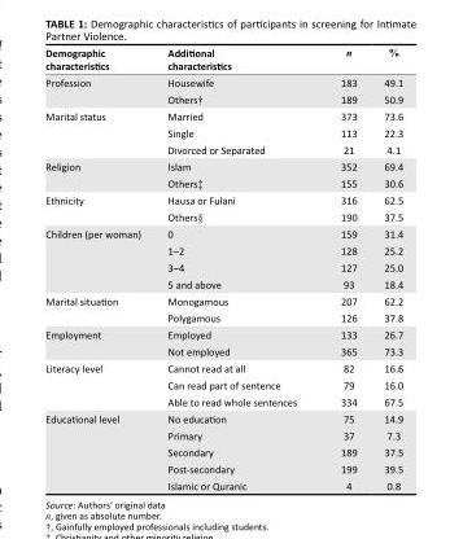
<table><thead><tr><td>Demographic characteristics</td><td>Additional characteristics</td><td>n</td><td>%</td></tr></thead><tbody><tr><td rowspan="2">Profession</td><td>Housewife</td><td>183</td><td>49.1</td></tr><tr><td>Others†</td><td>189</td><td>50.9</td></tr><tr><td rowspan="3">Marital status</td><td>Married</td><td>373</td><td>73.6</td></tr><tr><td>Single</td><td>113</td><td>22.3</td></tr><tr><td>Divorced or Separated</td><td>21</td><td>4.1</td></tr><tr><td rowspan="2">Religion</td><td>Islam</td><td>352</td><td>69.4</td></tr><tr><td>Others‡</td><td>155</td><td>30.6</td></tr><tr><td rowspan="2">Ethnicity</td><td>Hausa or Fulani</td><td>316</td><td>62.5</td></tr><tr><td>Others§</td><td>190</td><td>37.5</td></tr><tr><td rowspan="4">Children (per woman)</td><td>0</td><td>159</td><td>31.4</td></tr><tr><td>1–2</td><td>128</td><td>25.2</td></tr><tr><td>3–4</td><td>127</td><td>25.0</td></tr><tr><td>5 and above</td><td>93</td><td>18.4</td></tr><tr><td rowspan="2">Marital situation</td><td>Monogamous</td><td>207</td><td>62.2</td></tr><tr><td>Polygamous</td><td>126</td><td>37.8</td></tr><tr><td rowspan="2">Employment</td><td>Employed</td><td>133</td><td>26.7</td></tr><tr><td>Not employed</td><td>365</td><td>73.3</td></tr><tr><td rowspan="3">Literacy level</td><td>Cannot read at all</td><td>82</td><td>16.6</td></tr><tr><td>Can read part of sentence</td><td>79</td><td>16.0</td></tr><tr><td>Able to read whole sentences</td><td>334</td><td>67.5</td></tr><tr><td rowspan="5">Educational level</td><td>No education</td><td>75</td><td>14.9</td></tr><tr><td>Primary</td><td>37</td><td>7.3</td></tr><tr><td>Secondary</td><td>189</td><td>37.5</td></tr><tr><td>Post-secondary</td><td>199</td><td>39.5</td></tr><tr><td>Islamic or Quranic</td><td>4</td><td>0.8</td></tr></tbody></table>